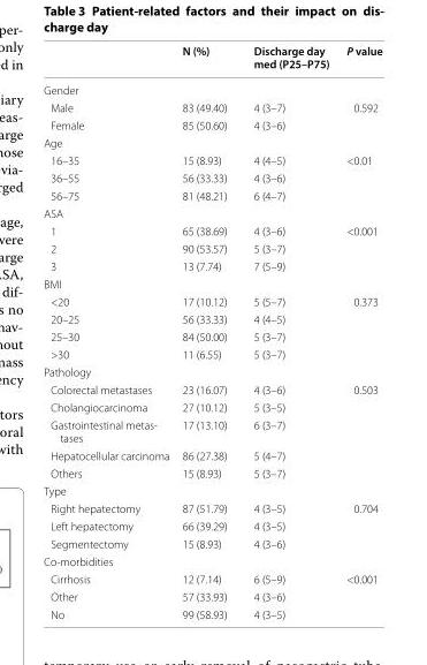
<table><thead><tr><td></td><td>N (%)</td><td>Discharge day med (P25–P75)</td><td>P value</td></tr></thead><tbody><tr><td colspan="4">Gender</td></tr><tr><td>Male</td><td>83 (49.40)</td><td>4 (3–7)</td><td rowspan="2">0.592</td></tr><tr><td>Female</td><td>85 (50.60)</td><td>4 (3–6)</td></tr><tr><td colspan="4">Age</td></tr><tr><td>16–35</td><td>15 (8.93)</td><td>4 (4–5)</td><td rowspan="3">&lt;0.01</td></tr><tr><td>36–55</td><td>56 (33.33)</td><td>4 (3–6)</td></tr><tr><td>56–75</td><td>81 (48.21)</td><td>6 (4–7)</td></tr><tr><td colspan="4">ASA</td></tr><tr><td>1</td><td>65 (38.69)</td><td>4 (3–6)</td><td rowspan="3">&lt;0.001</td></tr><tr><td>2</td><td>90 (53.57)</td><td>5 (3–7)</td></tr><tr><td>3</td><td>13 (7.74)</td><td>7 (5–9)</td></tr><tr><td colspan="4">BMI</td></tr><tr><td>&lt;20</td><td>17 (10.12)</td><td>5 (5–7)</td><td rowspan="4">0.373</td></tr><tr><td>20–25</td><td>56 (33.33)</td><td>4 (4–5)</td></tr><tr><td>25–30</td><td>84 (50.00)</td><td>5 (3–7)</td></tr><tr><td>&gt;30</td><td>11 (6.55)</td><td>5 (3–7)</td></tr><tr><td colspan="4">Pathology</td></tr><tr><td>Colorectal metastases</td><td>23 (16.07)</td><td>4 (3–6)</td><td rowspan="5">0.503</td></tr><tr><td>Cholangiocarcinoma</td><td>27 (10.12)</td><td>5 (3–5)</td></tr><tr><td>Gastrointestinal metas- tases</td><td>17 (13.10)</td><td>6 (3–7)</td></tr><tr><td>Hepatocellular carcinoma</td><td>86 (27.38)</td><td>5 (4–7)</td></tr><tr><td>Others</td><td>15 (8.93)</td><td>5 (3–7)</td></tr><tr><td colspan="4">Type</td></tr><tr><td>Right hepatectomy</td><td>87 (51.79)</td><td>4 (3–5)</td><td rowspan="3">0.704</td></tr><tr><td>Left hepatectomy</td><td>66 (39.29)</td><td>4 (3–5)</td></tr><tr><td>Segmentectomy</td><td>15 (8.93)</td><td>4 (3–6)</td></tr><tr><td colspan="4">Co-morbidities</td></tr><tr><td>Cirrhosis</td><td>12 (7.14)</td><td>6 (5–9)</td><td rowspan="3">&lt;0.001</td></tr><tr><td>Other</td><td>57 (33.93)</td><td>4 (3–6)</td></tr><tr><td>No</td><td>99 (58.93)</td><td>4 (3–5)</td></tr></tbody></table>